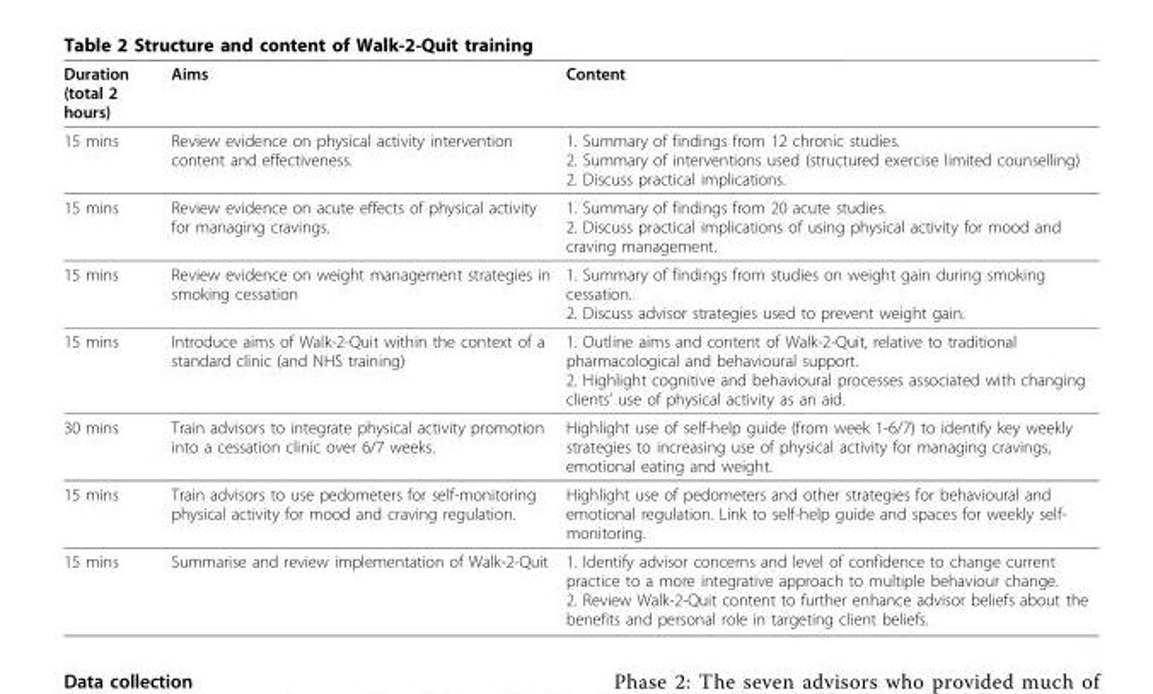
<table><thead><tr><td>Duration (total 2 hours)</td><td>Aims</td><td>Content</td></tr></thead><tbody><tr><td>15 mins</td><td>Review evidence on physical activity intervention content and effectiveness.</td><td>1. Summary of findings from 12 chronic studies. 2. Summary of interventions used (structured exercise limited counselling) 2. Discuss practical implications.</td></tr><tr><td>15 mins</td><td>Review evidence on acute effects of physical activity for managing cravings.</td><td>1. Summary of findings from 20 acute studies. 2. Discuss practical implications of using physical activity for mood and craving management.</td></tr><tr><td>15 mins</td><td>Review evidence on weight management strategies in smoking cessation</td><td>1. Summary of findings from studies on weight gain during smoking cessation. 2. Discuss advisor strategies used to prevent weight gain.</td></tr><tr><td>15 mins</td><td>Introduce aims of Walk-2-Quit within the context of a standard clinic (and NHS training)</td><td>1. Outline aims and content of Walk-2-Quit, relative to traditional pharmacological and behavioural support. 2. Highlight cognitive and behavioural processes associated with changing clients’ use of physical activity as an aid.</td></tr><tr><td>30 mins</td><td>Train advisors to integrate physical activity promotion into a cessation clinic over 6/7 weeks.</td><td>Highlight use of self-help guide (from week 1-6/7) to identify key weekly strategies to increasing use of physical activity for managing cravings, emotional eating and weight.</td></tr><tr><td>15 mins</td><td>Train advisors to use pedometers for self-monitoring physical activity for mood and craving regulation.</td><td>Highlight use of pedometers and other strategies for behavioural and emotional regulation. Link to self-help guide and spaces for weekly self- monitoring.</td></tr><tr><td>15 mins</td><td>Summarise and review implementation of Walk-2-Quit</td><td>1. Identify advisor concerns and level of confidence to change current practice to a more integrative approach to multiple behaviour change. 2. Review Walk-2-Quit content to further enhance advisor beliefs about the benefits and personal role in targeting client beliefs.</td></tr></tbody></table>